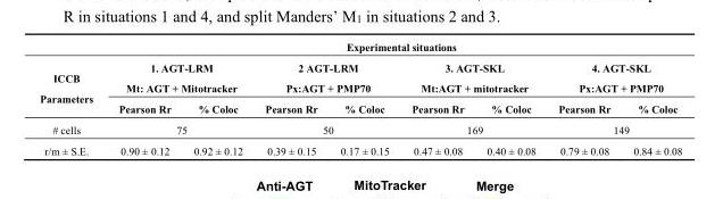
<table><thead><tr><td rowspan="3">ICCB Parameters</td><td colspan="8">Experimental situations</td></tr><tr><td colspan="2">1. AGT-LRM Mt: AGT + Mitotracker</td><td colspan="2">2 AGT-LRM Px:AGT + PMP70</td><td colspan="2">3. AGT-SKL Mt:AGT + mitotracker</td><td colspan="2">4. AGT-SKL Px:AGT + PMP70</td></tr><tr><td>Pearson Rr</td><td>% Coloc</td><td>Pearson Rr</td><td>% Coloc</td><td>Pearson Rr</td><td>% Coloc</td><td>Pearson Rr</td><td>% Coloc</td></tr></thead><tbody><tr><td># cells</td><td colspan="2">75</td><td colspan="2">50</td><td colspan="2">169</td><td colspan="2">149</td></tr><tr><td>r/m ± S.E.</td><td>0.90 ± 0.12</td><td>0.92 ± 0.12</td><td>0.39 ± 0.15</td><td>0.17 ± 0.15</td><td>0.47 ± 0.08</td><td>0.40 ± 0.08</td><td>0.79 ± 0.08</td><td>0.84 ± 0.08</td></tr></tbody></table>